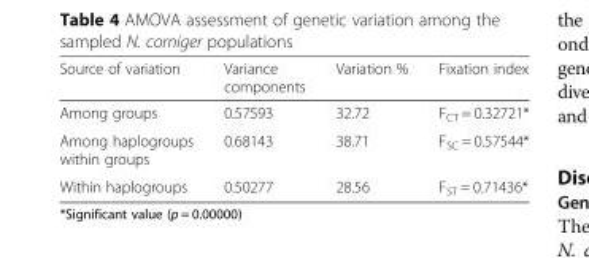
<table><thead><tr><td>Source of variation</td><td>Variance components</td><td>Variation %</td><td>Fixation index</td></tr></thead><tbody><tr><td>Among groups</td><td>0.57593</td><td>32.72</td><td>F<sub>CT</sub> = 0.32721*</td></tr><tr><td>Among haplogroups within groups</td><td>0.68143</td><td>38.71</td><td>F<sub>SC</sub> = 0.57544*</td></tr><tr><td>Within haplogroups</td><td>0.50277</td><td>28.56</td><td>F<sub>ST</sub> = 0.71436*</td></tr></tbody></table>